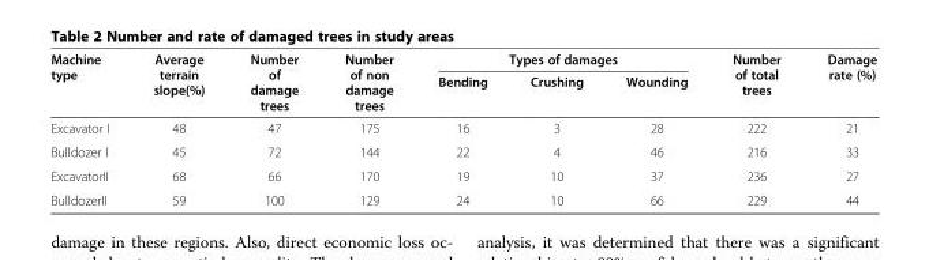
<table><thead><tr><td rowspan="2">Machine type</td><td rowspan="2">Average terrain slope(%)</td><td rowspan="2">Number of damage trees</td><td rowspan="2">Number of non damage trees</td><td colspan="3">Types of damages</td><td rowspan="2">Number of total trees</td><td rowspan="2">Damage rate (%)</td></tr><tr><td>Bending</td><td>Crushing</td><td>Wounding</td></tr></thead><tbody><tr><td>Excavator I</td><td>48</td><td>47</td><td>175</td><td>16</td><td>3</td><td>28</td><td>222</td><td>21</td></tr><tr><td>Bulldozer I</td><td>45</td><td>72</td><td>144</td><td>22</td><td>4</td><td>46</td><td>216</td><td>33</td></tr><tr><td>ExcavatorII</td><td>68</td><td>66</td><td>170</td><td>19</td><td>10</td><td>37</td><td>236</td><td>27</td></tr><tr><td>BulldozerII</td><td>59</td><td>100</td><td>129</td><td>24</td><td>10</td><td>66</td><td>229</td><td>44</td></tr></tbody></table>